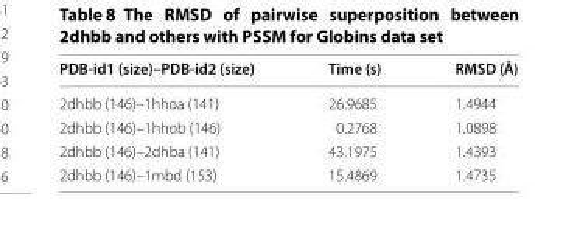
<table><thead><tr><td>PDB‑id1 (size)–PDB‑id2 (size)</td><td>Time (s)</td><td>RMSD (Å)</td></tr></thead><tbody><tr><td>2dhbb (146)–1hhoa (141)</td><td>26.9685</td><td>1.4944</td></tr><tr><td>2dhbb (146)–1hhob (146)</td><td>0.2768</td><td>1.0898</td></tr><tr><td>2dhbb (146)–2dhba (141)</td><td>43.1975</td><td>1.4393</td></tr><tr><td>2dhbb (146)–1mbd (153)</td><td>15.4869</td><td>1.4735</td></tr></tbody></table>